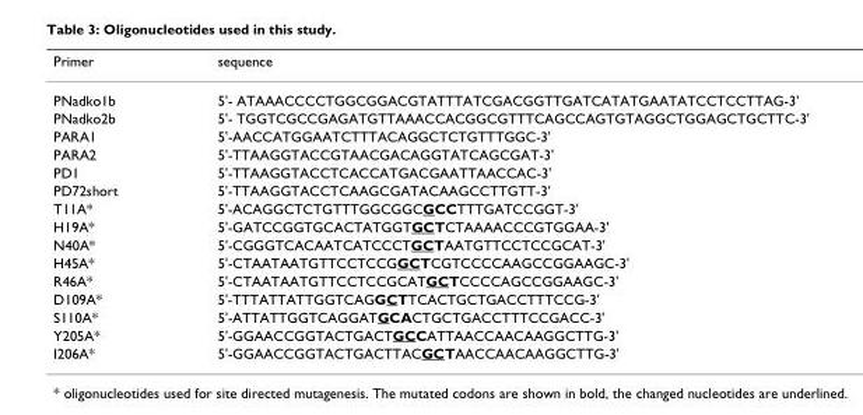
<table><thead><tr><td>Primer</td><td>sequence</td></tr></thead><tbody><tr><td>PNadko1b</td><td>5&#x27;- ATAAACCCCTGGCGGACGTATTTATCGACGGTTGATCATATGAATATCCTCCTTAG-3&#x27;</td></tr><tr><td>PNadko2b</td><td>5&#x27;- TGGTCGCCGAGATGTTAAACCACGGCGTTTCAGCCAGTGTAGGCTGGAGCTGCTTC-3&#x27;</td></tr><tr><td>PARA1</td><td>5&#x27;-AACCATGGAATCTTTACAGGCTCTGTTTGGC-3&#x27;</td></tr><tr><td>PARA2</td><td>5&#x27;-TTAAGGTACCGTAACGACAGGTATCAGCGAT-3&#x27;</td></tr><tr><td>PD1</td><td>5&#x27;-TTAAGGTACCTCACCATGACGAATTAACCAC-3&#x27;</td></tr><tr><td>PD72short</td><td>5&#x27;-TTAAGGTACCTCAAGCGATACAAGCCTTGTT-3&#x27;</td></tr><tr><td>T11A*</td><td>5&#x27;-ACAGGCTCTGTTTGGCGGCGCCTTTGATCCGGT-3&#x27;</td></tr><tr><td>H19A*</td><td>5&#x27;-GATCCGGTGCACTATGGTGCTCTAAAACCCGTGGAA-3&#x27;</td></tr><tr><td>N40A*</td><td>5&#x27;-CGGGTCACAATCATCCCTGCTAATGTTCCTCCGCAT-3&#x27;</td></tr><tr><td>H45A*</td><td>5&#x27;-CTAATAATGTTCCTCCGGCTCGTCCCCAAGCCGGAAGC-3&#x27;</td></tr><tr><td>R46A*</td><td>5&#x27;-CTAATAATGTTCCTCCGCATGCTCCCCAGCCGGAAGC-3&#x27;</td></tr><tr><td>D109A*</td><td>5&#x27;-TTTATTATTGGTCAGGCTTCACTGCTGACCTTTCCG-3&#x27;</td></tr><tr><td>S110A*</td><td>5&#x27;-ATTATTGGTCAGGATGCACTGCTGACCTTTCCGACC-3&#x27;</td></tr><tr><td>Y205A*</td><td>5&#x27;-GGAACCGGTACTGACTGCCATTAACCAACAAGGCTTG-3&#x27;</td></tr><tr><td>I206A*</td><td>5&#x27;-GGAACCGGTACTGACTTACGCTAACCAACAAGGCTTG-3&#x27;</td></tr></tbody></table>